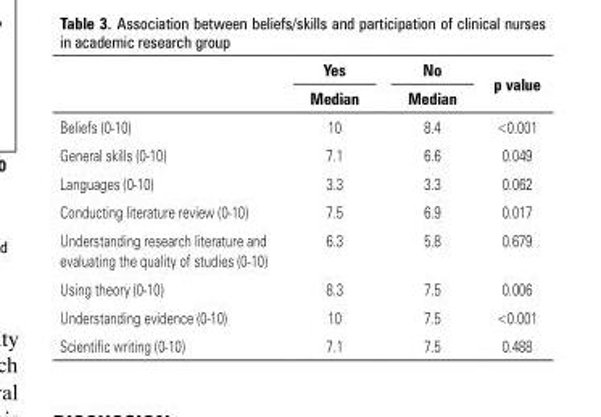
<table><thead><tr><td rowspan="2"></td><td rowspan="2">Yes Median</td><td rowspan="2">No Median</td><td rowspan="2">p value</td></tr><tr></tr></thead><tbody><tr><td>Beliefs (0-10)</td><td>10</td><td>8.4</td><td>&lt;0.001</td></tr><tr><td>General skills (0-10)</td><td>7.1</td><td>6.6</td><td>0.049</td></tr><tr><td>Languages (0-10)</td><td>3.3</td><td>3.3</td><td>0.062</td></tr><tr><td>Conducting literature review (0-10)</td><td>7.5</td><td>6.9</td><td>0.017</td></tr><tr><td>Understanding research literature and evaluating the quality of studies (0-10)</td><td>6.3</td><td>5.8</td><td>0.679</td></tr><tr><td>Using theory (0-10)</td><td>8.3</td><td>7.5</td><td>0.006</td></tr><tr><td>Understanding evidence (0-10)</td><td>10</td><td>7.5</td><td>&lt;0.001</td></tr><tr><td>Scientific writing (0-10)</td><td>7.1</td><td>7.5</td><td>0.488</td></tr></tbody></table>